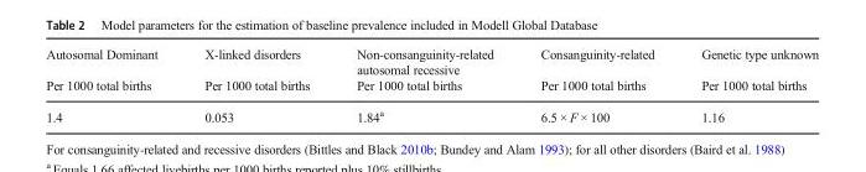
<table><thead><tr><td rowspan="2">Autosomal Dominant Per 1000 total births</td><td rowspan="2">X-linked disorders Per 1000 total births</td><td rowspan="2">Non-consanguinity-related autosomal recessive Per 1000 total births</td><td rowspan="2">Consanguinity-related Per 1000 total births</td><td rowspan="2">Genetic type unknown Per 1000 total births</td></tr><tr></tr></thead><tbody><tr><td>1.4</td><td>0.053</td><td>1.84<sup>a</sup></td><td>6.5 × F × 100</td><td>1.16</td></tr></tbody></table>